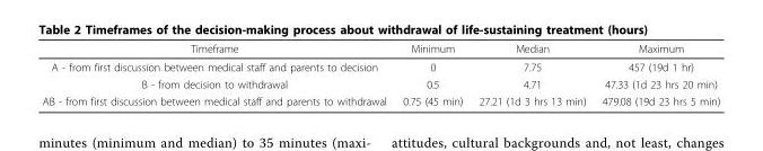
<table><thead><tr><td>Timeframe</td><td>Minimum</td><td>Median</td><td>Maximum</td></tr></thead><tbody><tr><td>A - from first discussion between medical staff and parents to decision</td><td>0</td><td>7.75</td><td>457 (19d 1 hr)</td></tr><tr><td>B - from decision to withdrawal</td><td>0.5</td><td>4.71</td><td>47.33 (1d 23 hrs 20 min)</td></tr><tr><td>AB - from first discussion between medical staff and parents to withdrawal</td><td>0.75 (45 min)</td><td>27.21 (1d 3 hrs 13 min)</td><td>479.08 (19d 23 hrs 5 min)</td></tr></tbody></table>